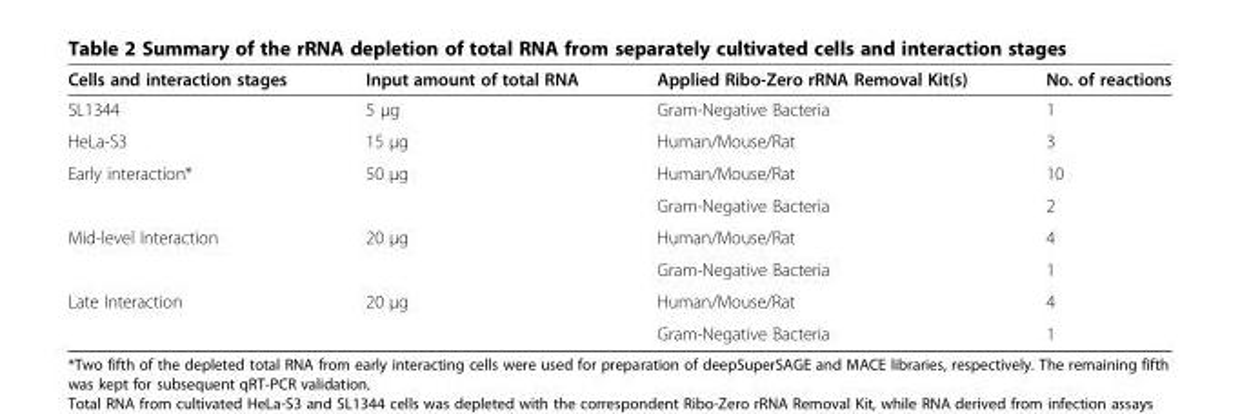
<table><thead><tr><td>Cells and interaction stages</td><td>Input amount of total RNA</td><td>Applied Ribo-Zero rRNA Removal Kit(s)</td><td>No. of reactions</td></tr></thead><tbody><tr><td>SL1344</td><td>5 μg</td><td>Gram-Negative Bacteria</td><td>1</td></tr><tr><td>HeLa-S3</td><td>15 μg</td><td>Human/Mouse/Rat</td><td>3</td></tr><tr><td rowspan="2">Early interaction*</td><td rowspan="2">50 μg</td><td>Human/Mouse/Rat</td><td>10</td></tr><tr><td>Gram-Negative Bacteria</td><td>2</td></tr><tr><td rowspan="2">Mid-level Interaction</td><td rowspan="2">20 μg</td><td>Human/Mouse/Rat</td><td>4</td></tr><tr><td>Gram-Negative Bacteria</td><td>1</td></tr><tr><td rowspan="2">Late Interaction</td><td rowspan="2">20 μg</td><td>Human/Mouse/Rat</td><td>4</td></tr><tr><td>Gram-Negative Bacteria</td><td>1</td></tr></tbody></table>